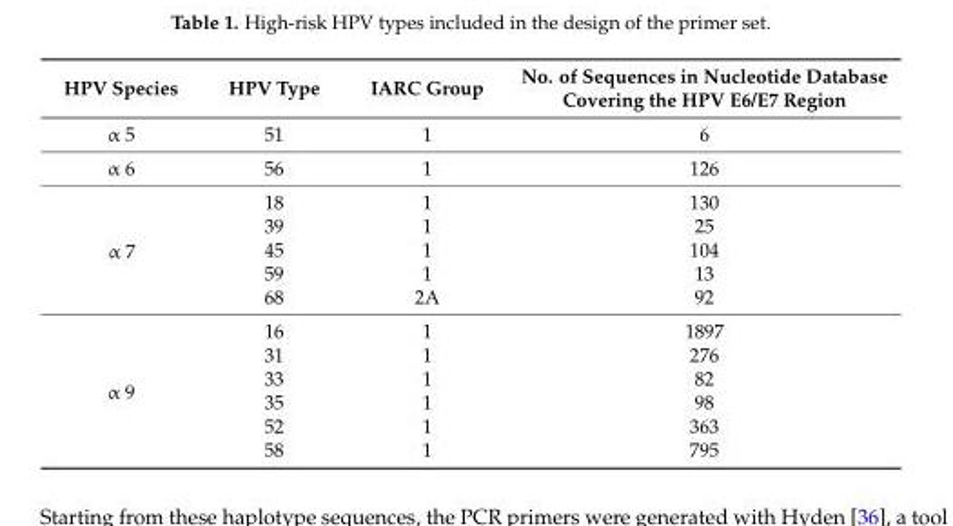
<table><thead><tr><td>HPV Species</td><td>HPV Type</td><td>IARC Group</td><td>No. of Sequences in Nucleotide Database Covering the HPV E6/E7 Region</td></tr></thead><tbody><tr><td>α 5</td><td>51</td><td>1</td><td>6</td></tr><tr><td>α 6</td><td>56</td><td>1</td><td>126</td></tr><tr><td rowspan="5">α 7</td><td>18</td><td>1</td><td>130</td></tr><tr><td>39</td><td>1</td><td>25</td></tr><tr><td>45</td><td>1</td><td>104</td></tr><tr><td>59</td><td>1</td><td>13</td></tr><tr><td>68</td><td>2A</td><td>92</td></tr><tr><td rowspan="6">α 9</td><td>16</td><td>1</td><td>1897</td></tr><tr><td>31</td><td>1</td><td>276</td></tr><tr><td>33</td><td>1</td><td>82</td></tr><tr><td>35</td><td>1</td><td>98</td></tr><tr><td>52</td><td>1</td><td>363</td></tr><tr><td>58</td><td>1</td><td>795</td></tr></tbody></table>